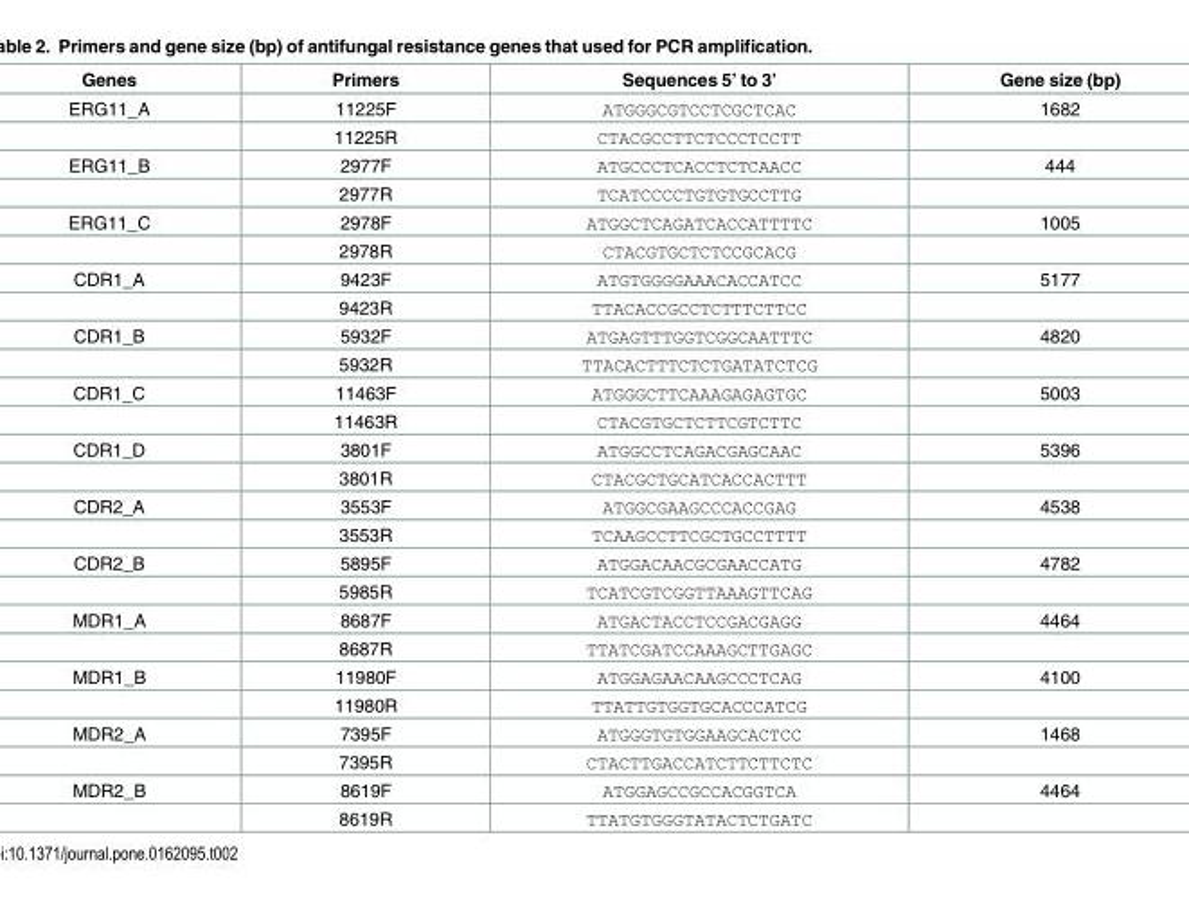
<table><thead><tr><td>Genes</td><td>Primers</td><td>Sequences 5’ to 3’</td><td>Gene size (bp)</td></tr></thead><tbody><tr><td rowspan="2">ERG11_A</td><td>11225F</td><td>ATGGGCGTCCTCGCTCAC</td><td>1682</td></tr><tr><td>11225R</td><td>CTACGCCTTCTCCCTCCTT</td><td></td></tr><tr><td rowspan="2">ERG11_B</td><td>2977F</td><td>ATGCCCTCACCTCTCAACC</td><td>444</td></tr><tr><td>2977R</td><td>TCATCCCCTGTGTGCCTTG</td><td></td></tr><tr><td rowspan="2">ERG11_C</td><td>2978F</td><td>ATGGCTCAGATCACCATTTTC</td><td>1005</td></tr><tr><td>2978R</td><td>CTACGTGCTCTCCGCACG</td><td></td></tr><tr><td rowspan="2">CDR1_A</td><td>9423F</td><td>ATGTGGGGAAACACCATCC</td><td>5177</td></tr><tr><td>9423R</td><td>TTACACCGCCTCTTTCTTCC</td><td></td></tr><tr><td rowspan="2">CDR1_B</td><td>5932F</td><td>ATGAGTTTGGTCGGCAATTTC</td><td>4820</td></tr><tr><td>5932R</td><td>TTACACTTTCTCTGATATCTCG</td><td></td></tr><tr><td rowspan="2">CDR1_C</td><td>11463F</td><td>ATGGGCTTCAAAGAGAGTGC</td><td>5003</td></tr><tr><td>11463R</td><td>CTACGTGCTCTTCGTCTTC</td><td></td></tr><tr><td rowspan="2">CDR1_D</td><td>3801F</td><td>ATGGCCTCAGACGAGCAAC</td><td>5396</td></tr><tr><td>3801R</td><td>CTACGCTGCATCACCACTTT</td><td></td></tr><tr><td rowspan="2">CDR2_A</td><td>3553F</td><td>ATGGCGAAGCCCACCGAG</td><td>4538</td></tr><tr><td>3553R</td><td>TCAAGCCTTCGCTGCCTTTT</td><td></td></tr><tr><td rowspan="2">CDR2_B</td><td>5895F</td><td>ATGGACAACGCGAACCATG</td><td>4782</td></tr><tr><td>5985R</td><td>TCATCGTCGGTTAAAGTTCAG</td><td></td></tr><tr><td rowspan="2">MDR1_A</td><td>8687F</td><td>ATGACTACCTCCGACGAGG</td><td>4464</td></tr><tr><td>8687R</td><td>TTATCGATCCAAAGCTTGAGC</td><td></td></tr><tr><td rowspan="2">MDR1_B</td><td>11980F</td><td>ATGGAGAACAAGCCCTCAG</td><td>4100</td></tr><tr><td>11980R</td><td>TTATTGTGGTGCACCCATCG</td><td></td></tr><tr><td rowspan="2">MDR2_A</td><td>7395F</td><td>ATGGGTGTGGAAGCACTCC</td><td>1468</td></tr><tr><td>7395R</td><td>CTACTTGACCATCTTCTTCTC</td><td></td></tr><tr><td rowspan="2">MDR2_B</td><td>8619F</td><td>ATGGAGCCGCCACGGTCA</td><td>4464</td></tr><tr><td>8619R</td><td>TTATGTGGGTATACTCTGATC</td><td></td></tr></tbody></table>